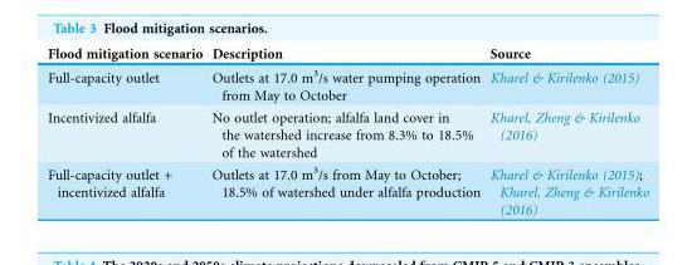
<table><thead><tr><td>Flood mitigation scenario</td><td>Description</td><td>Source</td></tr></thead><tbody><tr><td>Full-capacity outlet</td><td>Outlets at 17.0 m<sup>3</sup>/s water pumping operation from May to October</td><td>Kharel &amp; Kirilenko (2015)</td></tr><tr><td>Incentivized alfalfa</td><td>No outlet operation; alfalfa land cover in the watershed increase from 8.3% to 18.5% of the watershed</td><td>Kharel, Zheng &amp; Kirilenko (2016)</td></tr><tr><td>Full-capacity outlet + incentivized alfalfa</td><td>Outlets at 17.0 m<sup>3</sup>/s from May to October; 18.5% of watershed under alfalfa production</td><td>Kharel &amp; Kirilenko (2015); Kharel, Zheng &amp; Kirilenko (2016)</td></tr></tbody></table>